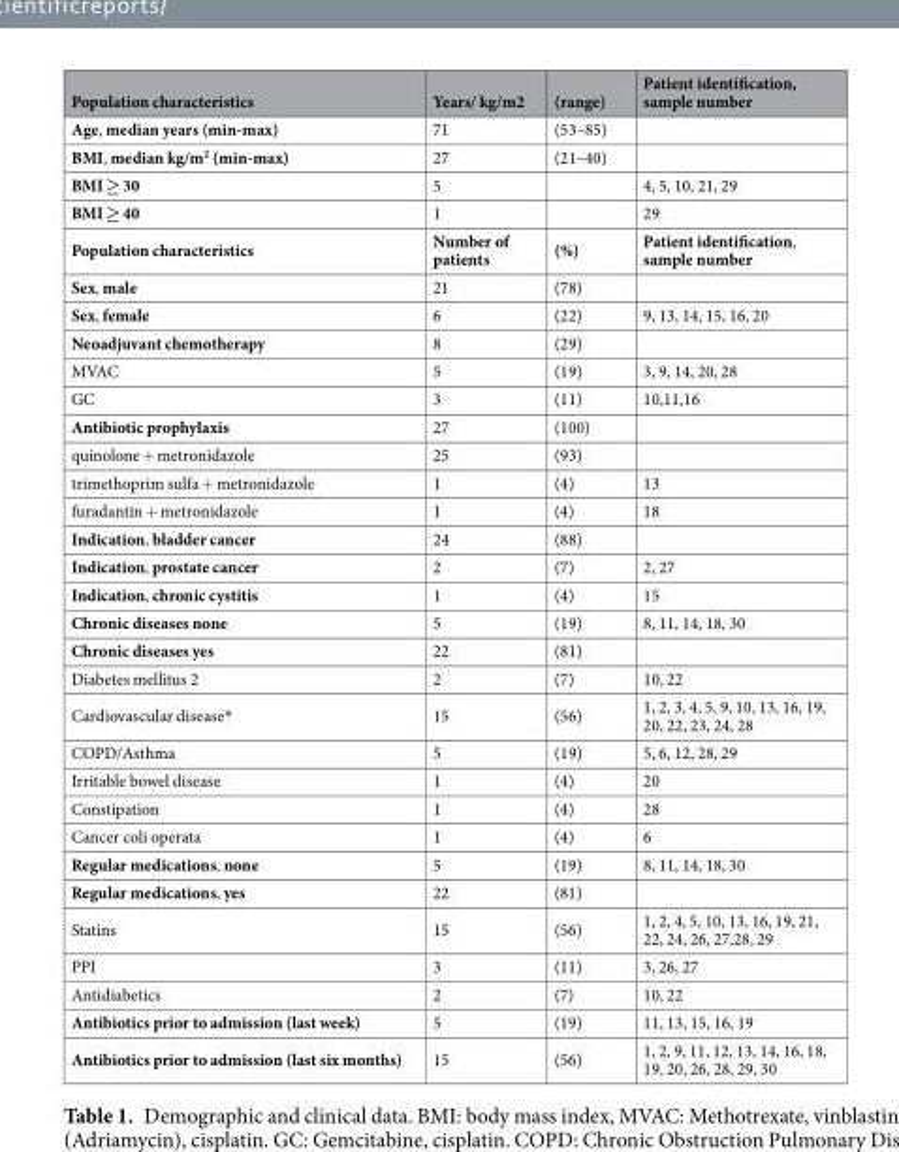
<table><thead><tr><td>Population characteristics</td><td>Years/ kg/m2</td><td>(range)</td><td>Patient identification, sample number</td></tr></thead><tbody><tr><td>Age, median years (min-max)</td><td>71</td><td>(53–85)</td><td></td></tr><tr><td>BMI, median kg/m<sup>2</sup> (min-max)</td><td>27</td><td>(21–40)</td><td></td></tr><tr><td>BMI ≥ 30</td><td>5</td><td></td><td>4, 5, 10, 21, 29</td></tr><tr><td>BMI ≥ 40</td><td>1</td><td></td><td>29</td></tr><tr><td>Population characteristics</td><td>Number of patients</td><td>(%)</td><td>Patient identification, sample number</td></tr><tr><td>Sex, male</td><td>21</td><td>(78)</td><td></td></tr><tr><td>Sex, female</td><td>6</td><td>(22)</td><td>9, 13, 14, 15, 16, 20</td></tr><tr><td>Neoadjuvant chemotherapy</td><td>8</td><td>(29)</td><td></td></tr><tr><td>MVAC</td><td>5</td><td>(19)</td><td>3, 9, 14, 20, 28</td></tr><tr><td>GC</td><td>3</td><td>(11)</td><td>10,11,16</td></tr><tr><td>Antibiotic prophylaxis</td><td>27</td><td>(100)</td><td></td></tr><tr><td>quinolone + metronidazole</td><td>25</td><td>(93)</td><td></td></tr><tr><td>trimethoprim sulfa + metronidazole</td><td>1</td><td>(4)</td><td>13</td></tr><tr><td>furadantin + metronidazole</td><td>1</td><td>(4)</td><td>18</td></tr><tr><td>Indication, bladder cancer</td><td>24</td><td>(88)</td><td></td></tr><tr><td>Indication, prostate cancer</td><td>2</td><td>(7)</td><td>2, 27</td></tr><tr><td>Indication, chronic cystitis</td><td>1</td><td>(4)</td><td>15</td></tr><tr><td>Chronic diseases none</td><td>5</td><td>(19)</td><td>8, 11, 14, 18, 30</td></tr><tr><td>Chronic diseases yes</td><td>22</td><td>(81)</td><td></td></tr><tr><td>Diabetes mellitus 2</td><td>2</td><td>(7)</td><td>10, 22</td></tr><tr><td>Cardiovascular disease*</td><td>15</td><td>(56)</td><td>1, 2, 3, 4, 5, 9, 10, 13, 16, 19, 20, 22, 23, 24, 28</td></tr><tr><td>COPD/Asthma</td><td>5</td><td>(19)</td><td>5, 6, 12, 28, 29</td></tr><tr><td>Irritable bowel disease</td><td>1</td><td>(4)</td><td>20</td></tr><tr><td>Constipation</td><td>1</td><td>(4)</td><td>28</td></tr><tr><td>Cancer coli operata</td><td>1</td><td>(4)</td><td>6</td></tr><tr><td>Regular medications, none</td><td>5</td><td>(19)</td><td>8, 11, 14, 18, 30</td></tr><tr><td>Regular medications, yes</td><td>22</td><td>(81)</td><td></td></tr><tr><td>Statins</td><td>15</td><td>(56)</td><td>1, 2, 4, 5, 10, 13, 16, 19, 21, 22, 24, 26, 27,28, 29</td></tr><tr><td>PPI</td><td>3</td><td>(11)</td><td>3, 26, 27</td></tr><tr><td>Antidiabetics</td><td>2</td><td>(7)</td><td>10, 22</td></tr><tr><td>Antibiotics prior to admission (last week)</td><td>5</td><td>(19)</td><td>11, 13, 15, 16, 19</td></tr><tr><td>Antibiotics prior to admission (last six months)</td><td>15</td><td>(56)</td><td>1, 2, 9, 11, 12, 13, 14, 16, 18, 19, 20, 26, 28, 29, 30</td></tr></tbody></table>